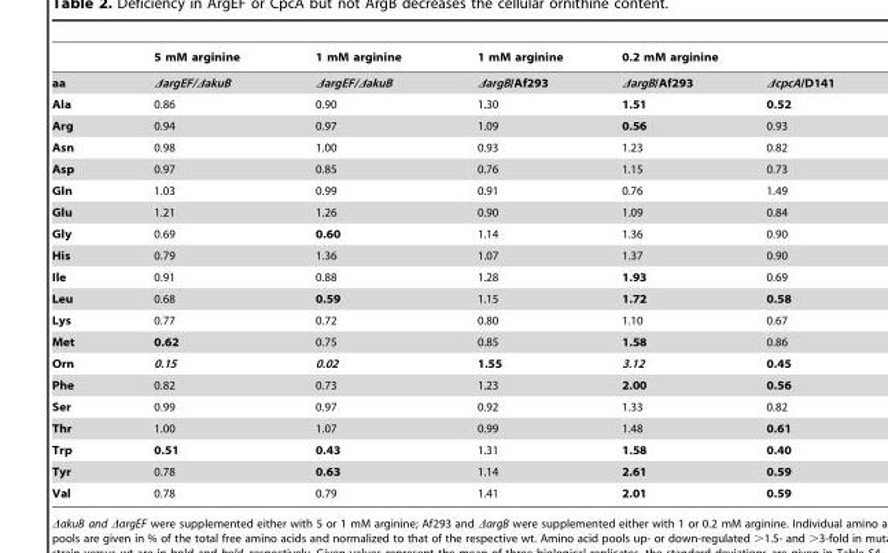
<table><thead><tr><td></td><td>5 mM arginine</td><td>1 mM arginine</td><td>1 mM arginine</td><td>0.2 mM arginine</td><td></td></tr></thead><tbody><tr><td>aa</td><td>ΔargEF/ΔakuB</td><td>ΔargEF/ΔakuB</td><td>ΔargB/Af293</td><td>ΔargB/Af293</td><td>ΔcpcA/D141</td></tr><tr><td>Ala</td><td>0.86</td><td>0.90</td><td>1.30</td><td>1.51</td><td>0.52</td></tr><tr><td>Arg</td><td>0.94</td><td>0.97</td><td>1.09</td><td>0.56</td><td>0.93</td></tr><tr><td>Asn</td><td>0.98</td><td>1.00</td><td>0.93</td><td>1.23</td><td>0.82</td></tr><tr><td>Asp</td><td>0.97</td><td>0.85</td><td>0.76</td><td>1.15</td><td>0.73</td></tr><tr><td>Gln</td><td>1.03</td><td>0.99</td><td>0.91</td><td>0.76</td><td>1.49</td></tr><tr><td>Glu</td><td>1.21</td><td>1.26</td><td>0.90</td><td>1.09</td><td>0.84</td></tr><tr><td>Gly</td><td>0.69</td><td>0.60</td><td>1.14</td><td>1.36</td><td>0.90</td></tr><tr><td>His</td><td>0.79</td><td>1.36</td><td>1.07</td><td>1.37</td><td>0.90</td></tr><tr><td>Ile</td><td>0.91</td><td>0.88</td><td>1.28</td><td>1.93</td><td>0.69</td></tr><tr><td>Leu</td><td>0.68</td><td>0.59</td><td>1.15</td><td>1.72</td><td>0.58</td></tr><tr><td>Lys</td><td>0.77</td><td>0.72</td><td>0.80</td><td>1.10</td><td>0.67</td></tr><tr><td>Met</td><td>0.62</td><td>0.75</td><td>0.85</td><td>1.58</td><td>0.86</td></tr><tr><td>Orn</td><td>0.15</td><td>0.02</td><td>1.55</td><td>3.12</td><td>0.45</td></tr><tr><td>Phe</td><td>0.82</td><td>0.73</td><td>1.23</td><td>2.00</td><td>0.56</td></tr><tr><td>Ser</td><td>0.99</td><td>0.97</td><td>0.92</td><td>1.33</td><td>0.82</td></tr><tr><td>Thr</td><td>1.00</td><td>1.07</td><td>0.99</td><td>1.48</td><td>0.61</td></tr><tr><td>Trp</td><td>0.51</td><td>0.43</td><td>1.31</td><td>1.58</td><td>0.40</td></tr><tr><td>Tyr</td><td>0.78</td><td>0.63</td><td>1.14</td><td>2.61</td><td>0.59</td></tr><tr><td>Val</td><td>0.78</td><td>0.79</td><td>1.41</td><td>2.01</td><td>0.59</td></tr></tbody></table>